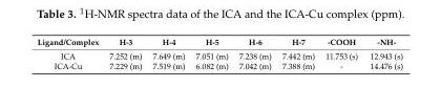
<table><thead><tr><td>Ligand/Complex</td><td>H-3</td><td>H-4</td><td>H-5</td><td>H-6</td><td>H-7</td><td>-COOH</td><td>-NH-</td></tr></thead><tbody><tr><td>ICA</td><td>7.252 (m)</td><td>7.649 (m)</td><td>7.051 (m)</td><td>7.238 (m)</td><td>7.442 (m)</td><td>11.753 (s)</td><td>12.943 (s)</td></tr><tr><td>ICA-Cu</td><td>7.229 (m)</td><td>7.519 (m)</td><td>6.082 (m)</td><td>7.042 (m)</td><td>7.388 (m)</td><td>-</td><td>14.476 (s)</td></tr></tbody></table>